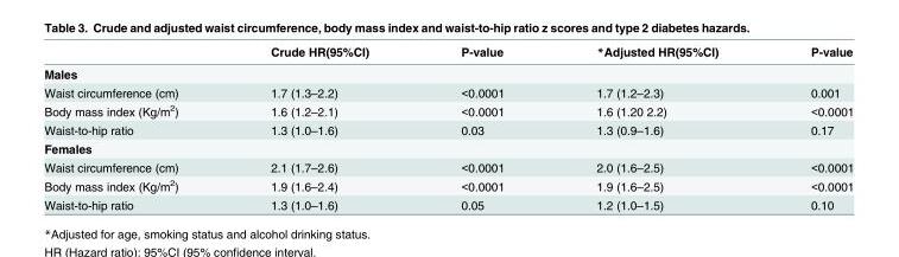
<table><thead><tr><td></td><td>Crude HR(95%CI)</td><td>P-value</td><td>*Adjusted HR(95%CI)</td><td>P-value</td></tr></thead><tbody><tr><td colspan="5">Males</td></tr><tr><td>Waist circumference (cm)</td><td>1.7 (1.3–2.2)</td><td>&lt;0.0001</td><td>1.7 (1.2–2.3)</td><td>0.001</td></tr><tr><td>Body mass index (Kg/m<sup>2</sup>)</td><td>1.6 (1.2–2.1)</td><td>&lt;0.0001</td><td>1.6 (1.20 2.2)</td><td>&lt;0.0001</td></tr><tr><td>Waist-to-hip ratio</td><td>1.3 (1.0–1.6)</td><td>0.03</td><td>1.3 (0.9–1.6)</td><td>0.17</td></tr><tr><td colspan="5">Females</td></tr><tr><td>Waist circumference (cm)</td><td>2.1 (1.7–2.6)</td><td>&lt;0.0001</td><td>2.0 (1.6–2.5)</td><td>&lt;0.0001</td></tr><tr><td>Body mass index (Kg/m<sup>2</sup>)</td><td>1.9 (1.6–2.4)</td><td>&lt;0.0001</td><td>1.9 (1.6–2.5)</td><td>&lt;0.0001</td></tr><tr><td>Waist-to-hip ratio</td><td>1.3 (1.0–1.6)</td><td>0.05</td><td>1.2 (1.0–1.5)</td><td>0.10</td></tr></tbody></table>